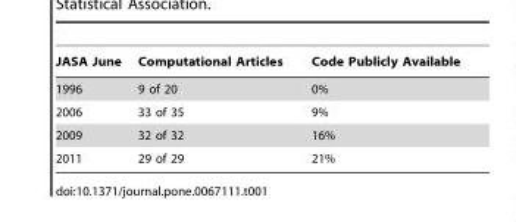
<table><thead><tr><td>JASA June</td><td>Computational Articles</td><td>Code Publicly Available</td></tr></thead><tbody><tr><td>1996</td><td>9 of 20</td><td>0%</td></tr><tr><td>2006</td><td>33 of 35</td><td>9%</td></tr><tr><td>2009</td><td>32 of 32</td><td>16%</td></tr><tr><td>2011</td><td>29 of 29</td><td>21%</td></tr></tbody></table>